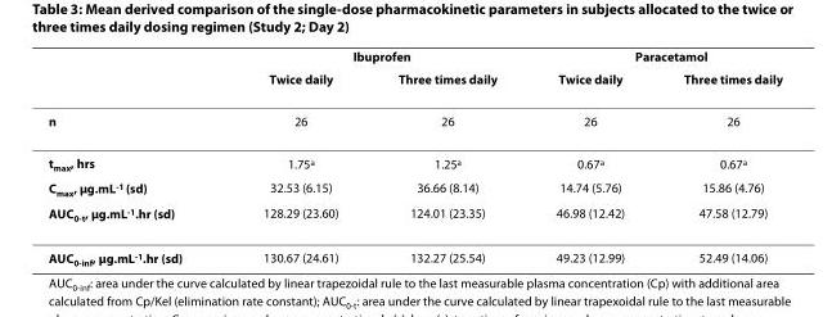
<table><thead><tr><td rowspan="2"></td><td colspan="2">Ibuprofen</td><td colspan="2">Paracetamol</td></tr><tr><td>Twice daily</td><td>Three times daily</td><td>Twice daily</td><td>Three times daily</td></tr></thead><tbody><tr><td>n</td><td>26</td><td>26</td><td>26</td><td>26</td></tr><tr><td>t<sub>max</sub>, hrs</td><td>1.75<sup>a</sup></td><td>1.25<sup>a</sup></td><td>0.67<sup>a</sup></td><td>0.67<sup>a</sup></td></tr><tr><td>C<sub>max</sub>, μg.mL<sup>-1</sup> (sd)</td><td>32.53 (6.15)</td><td>36.66 (8.14)</td><td>14.74 (5.76)</td><td>15.86 (4.76)</td></tr><tr><td>AUC<sub>0-t</sub>, μg.mL<sup>-1</sup>.hr (sd)</td><td>128.29 (23.60)</td><td>124.01 (23.35)</td><td>46.98 (12.42)</td><td>47.58 (12.79)</td></tr><tr><td>AUC<sub>0-inf</sub>, μg.mL<sup>-1</sup>.hr (sd)</td><td>130.67 (24.61)</td><td>132.27 (25.54)</td><td>49.23 (12.99)</td><td>52.49 (14.06)</td></tr></tbody></table>